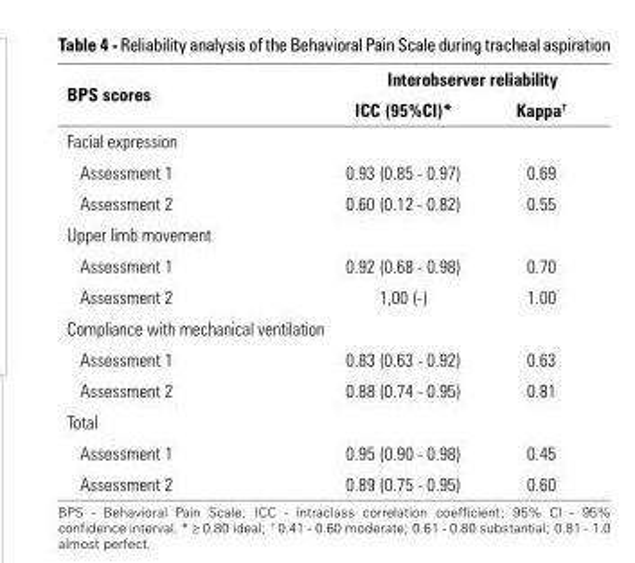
<table><thead><tr><td rowspan="2">BPS scores</td><td colspan="2">Interobserver reliability</td></tr><tr><td>ICC (95%CI)*</td><td>Kappa<sup>†</sup></td></tr></thead><tbody><tr><td colspan="3">Facial expression</td></tr><tr><td>Assessment 1</td><td>0.93 (0.85 - 0.97)</td><td>0.69</td></tr><tr><td>Assessment 2</td><td>0.60 (0.12 - 0.82)</td><td>0.55</td></tr><tr><td colspan="3">Upper limb movement</td></tr><tr><td>Assessment 1</td><td>0.92 (0.68 - 0.98)</td><td>0.70</td></tr><tr><td>Assessment 2</td><td>1,00 (-)</td><td>1.00</td></tr><tr><td colspan="3">Compliance with mechanical ventilation</td></tr><tr><td>Assessment 1</td><td>0.83 (0.63 - 0.92)</td><td>0.63</td></tr><tr><td>Assessment 2</td><td>0.88 (0.74 - 0.95)</td><td>0.81</td></tr><tr><td colspan="3">Total</td></tr><tr><td>Assessment 1</td><td>0.95 (0.90 - 0.98)</td><td>0.45</td></tr><tr><td>Assessment 2</td><td>0.89 (0.75 - 0.95)</td><td>0.60</td></tr></tbody></table>